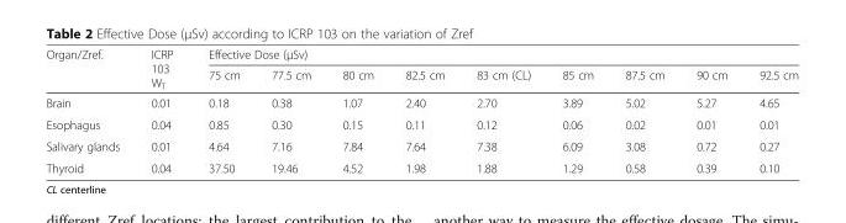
<table><thead><tr><td rowspan="2">Organ/Zref.</td><td rowspan="2">ICRP 103 W<sub>T</sub></td><td colspan="9">Effective Dose (μSv)</td></tr><tr><td>75 cm</td><td>77.5 cm</td><td>80 cm</td><td>82.5 cm</td><td>83 cm (CL)</td><td>85 cm</td><td>87.5 cm</td><td>90 cm</td><td>92.5 cm</td></tr></thead><tbody><tr><td>Brain</td><td>0.01</td><td>0.18</td><td>0.38</td><td>1.07</td><td>2.40</td><td>2.70</td><td>3.89</td><td>5.02</td><td>5.27</td><td>4.65</td></tr><tr><td>Esophagus</td><td>0.04</td><td>0.85</td><td>0.30</td><td>0.15</td><td>0.11</td><td>0.12</td><td>0.06</td><td>0.02</td><td>0.01</td><td>0.01</td></tr><tr><td>Salivary glands</td><td>0.01</td><td>4.64</td><td>7.16</td><td>7.84</td><td>7.64</td><td>7.38</td><td>6.09</td><td>3.08</td><td>0.72</td><td>0.27</td></tr><tr><td>Thyroid</td><td>0.04</td><td>37.50</td><td>19.46</td><td>4.52</td><td>1.98</td><td>1.88</td><td>1.29</td><td>0.58</td><td>0.39</td><td>0.10</td></tr></tbody></table>